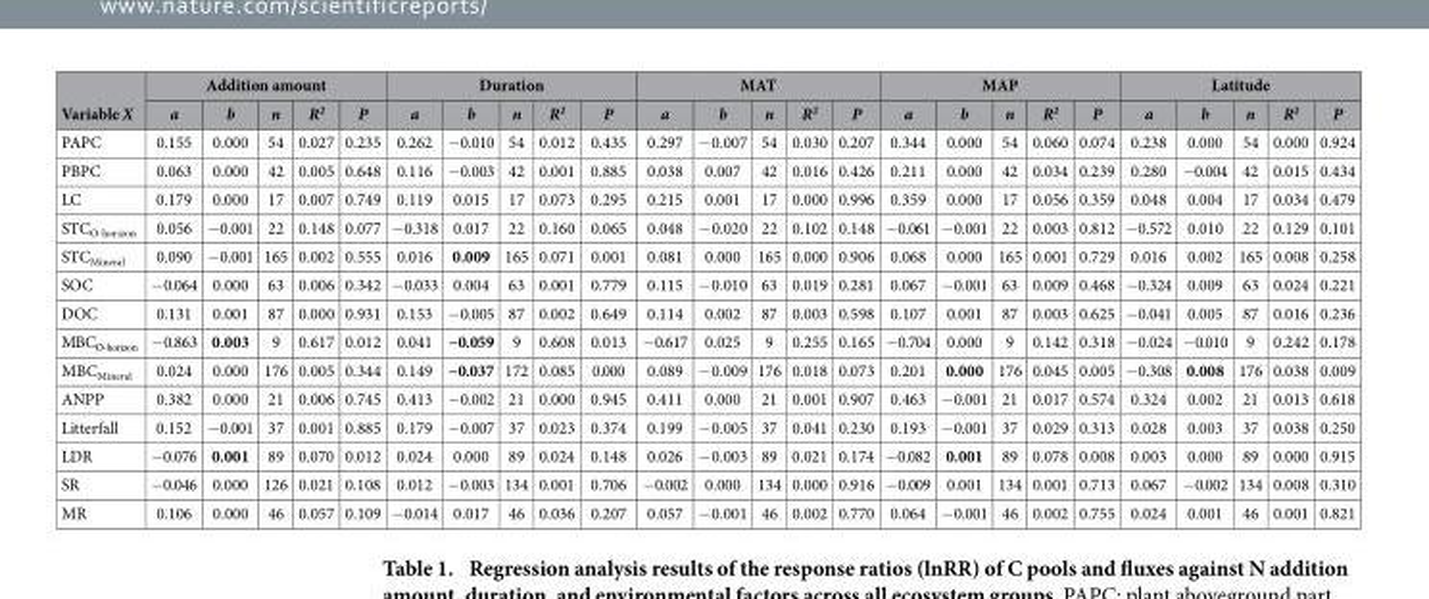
<table><thead><tr><td rowspan="2">Variable X</td><td colspan="5">Addition amount</td><td colspan="5">Duration</td><td colspan="5">MAT</td><td colspan="5">MAP</td><td colspan="5">Latitude</td></tr><tr><td>a</td><td>b</td><td>n</td><td>R<sup>2</sup></td><td>P</td><td>a</td><td>b</td><td>n</td><td>R<sup>2</sup></td><td>P</td><td>a</td><td>b</td><td>n</td><td>R<sup>2</sup></td><td>P</td><td>a</td><td>b</td><td>n</td><td>R<sup>2</sup></td><td>P</td><td>a</td><td>b</td><td>n</td><td>R<sup>2</sup></td><td>P</td></tr></thead><tbody><tr><td>PAPC</td><td>0.155</td><td>0.000</td><td>54</td><td>0.027</td><td>0.235</td><td>0.262</td><td>− 0.010</td><td>54</td><td>0.012</td><td>0.435</td><td>0.297</td><td>− 0.007</td><td>54</td><td>0.030</td><td>0.207</td><td>0.344</td><td>0.000</td><td>54</td><td>0.060</td><td>0.074</td><td>0.238</td><td>0.000</td><td>54</td><td>0.000</td><td>0.924</td></tr><tr><td>PBPC</td><td>0.063</td><td>0.000</td><td>42</td><td>0.005</td><td>0.648</td><td>0.116</td><td>− 0.003</td><td>42</td><td>0.001</td><td>0.885</td><td>0.038</td><td>0.007</td><td>42</td><td>0.016</td><td>0.426</td><td>0.211</td><td>0.000</td><td>42</td><td>0.034</td><td>0.239</td><td>0.280</td><td>− 0.004</td><td>42</td><td>0.015</td><td>0.434</td></tr><tr><td>LC</td><td>0.179</td><td>0.000</td><td>17</td><td>0.007</td><td>0.749</td><td>0.119</td><td>0.015</td><td>17</td><td>0.073</td><td>0.295</td><td>0.215</td><td>0.001</td><td>17</td><td>0.000</td><td>0.996</td><td>0.359</td><td>0.000</td><td>17</td><td>0.056</td><td>0.359</td><td>0.048</td><td>0.004</td><td>17</td><td>0.034</td><td>0.479</td></tr><tr><td>STC<sub>O-horizon</sub></td><td>0.056</td><td>− 0.001</td><td>22</td><td>0.148</td><td>0.077</td><td>− 0.318</td><td>0.017</td><td>22</td><td>0.160</td><td>0.065</td><td>0.048</td><td>− 0.020</td><td>22</td><td>0.102</td><td>0.148</td><td>− 0.061</td><td>− 0.001</td><td>22</td><td>0.003</td><td>0.812</td><td>− 0.572</td><td>0.010</td><td>22</td><td>0.129</td><td>0.101</td></tr><tr><td>STC<sub>Mineral</sub></td><td>0.090</td><td>− 0.001</td><td>165</td><td>0.002</td><td>0.555</td><td>0.016</td><td>0.009</td><td>165</td><td>0.071</td><td>0.001</td><td>0.081</td><td>0.000</td><td>165</td><td>0.000</td><td>0.906</td><td>0.068</td><td>0.000</td><td>165</td><td>0.001</td><td>0.729</td><td>0.016</td><td>0.002</td><td>165</td><td>0.008</td><td>0.258</td></tr><tr><td>SOC</td><td>− 0.064</td><td>0.000</td><td>63</td><td>0.006</td><td>0.342</td><td>− 0.033</td><td>0.004</td><td>63</td><td>0.001</td><td>0.779</td><td>0.115</td><td>− 0.010</td><td>63</td><td>0.019</td><td>0.281</td><td>0.067</td><td>− 0.001</td><td>63</td><td>0.009</td><td>0.468</td><td>− 0.324</td><td>0.009</td><td>63</td><td>0.024</td><td>0.221</td></tr><tr><td>DOC</td><td>0.131</td><td>0.001</td><td>87</td><td>0.000</td><td>0.931</td><td>0.153</td><td>− 0.005</td><td>87</td><td>0.002</td><td>0.649</td><td>0.114</td><td>0.002</td><td>87</td><td>0.003</td><td>0.598</td><td>0.107</td><td>0.001</td><td>87</td><td>0.003</td><td>0.625</td><td>− 0.041</td><td>0.005</td><td>87</td><td>0.016</td><td>0.236</td></tr><tr><td>MBC<sub>O-horizon</sub></td><td>− 0.863</td><td>0.003</td><td>9</td><td>0.617</td><td>0.012</td><td>0.041</td><td>− 0.059</td><td>9</td><td>0.608</td><td>0.013</td><td>− 0.617</td><td>0.025</td><td>9</td><td>0.255</td><td>0.165</td><td>− 0.704</td><td>0.000</td><td>9</td><td>0.142</td><td>0.318</td><td>− 0.024</td><td>− 0.010</td><td>9</td><td>0.242</td><td>0.178</td></tr><tr><td>MBC<sub>Mineral</sub></td><td>0.024</td><td>0.000</td><td>176</td><td>0.005</td><td>0.344</td><td>0.149</td><td>− 0.037</td><td>172</td><td>0.085</td><td>0.000</td><td>0.089</td><td>− 0.009</td><td>176</td><td>0.018</td><td>0.073</td><td>0.201</td><td>0.000</td><td>176</td><td>0.045</td><td>0.005</td><td>− 0.308</td><td>0.008</td><td>176</td><td>0.038</td><td>0.009</td></tr><tr><td>ANPP</td><td>0.382</td><td>0.000</td><td>21</td><td>0.006</td><td>0.745</td><td>0.413</td><td>− 0.002</td><td>21</td><td>0.000</td><td>0.945</td><td>0.411</td><td>0.000</td><td>21</td><td>0.001</td><td>0.907</td><td>0.463</td><td>− 0.001</td><td>21</td><td>0.017</td><td>0.574</td><td>0.324</td><td>0.002</td><td>21</td><td>0.013</td><td>0.618</td></tr><tr><td>Litterfall</td><td>0.152</td><td>− 0.001</td><td>37</td><td>0.001</td><td>0.885</td><td>0.179</td><td>− 0.007</td><td>37</td><td>0.023</td><td>0.374</td><td>0.199</td><td>− 0.005</td><td>37</td><td>0.041</td><td>0.230</td><td>0.193</td><td>− 0.001</td><td>37</td><td>0.029</td><td>0.313</td><td>0.028</td><td>0.003</td><td>37</td><td>0.038</td><td>0.250</td></tr><tr><td>LDR</td><td>− 0.076</td><td>0.001</td><td>89</td><td>0.070</td><td>0.012</td><td>0.024</td><td>0.000</td><td>89</td><td>0.024</td><td>0.148</td><td>0.026</td><td>− 0.003</td><td>89</td><td>0.021</td><td>0.174</td><td>− 0.082</td><td>0.001</td><td>89</td><td>0.078</td><td>0.008</td><td>0.003</td><td>0.000</td><td>89</td><td>0.000</td><td>0.915</td></tr><tr><td>SR</td><td>− 0.046</td><td>0.000</td><td>126</td><td>0.021</td><td>0.108</td><td>0.012</td><td>− 0.003</td><td>134</td><td>0.001</td><td>0.706</td><td>− 0.002</td><td>0.000</td><td>134</td><td>0.000</td><td>0.916</td><td>− 0.009</td><td>0.001</td><td>134</td><td>0.001</td><td>0.713</td><td>0.067</td><td>− 0.002</td><td>134</td><td>0.008</td><td>0.310</td></tr><tr><td>MR</td><td>0.106</td><td>0.000</td><td>46</td><td>0.057</td><td>0.109</td><td>− 0.014</td><td>0.017</td><td>46</td><td>0.036</td><td>0.207</td><td>0.057</td><td>− 0.001</td><td>46</td><td>0.002</td><td>0.770</td><td>0.064</td><td>− 0.001</td><td>46</td><td>0.002</td><td>0.755</td><td>0.024</td><td>0.001</td><td>46</td><td>0.001</td><td>0.821</td></tr></tbody></table>